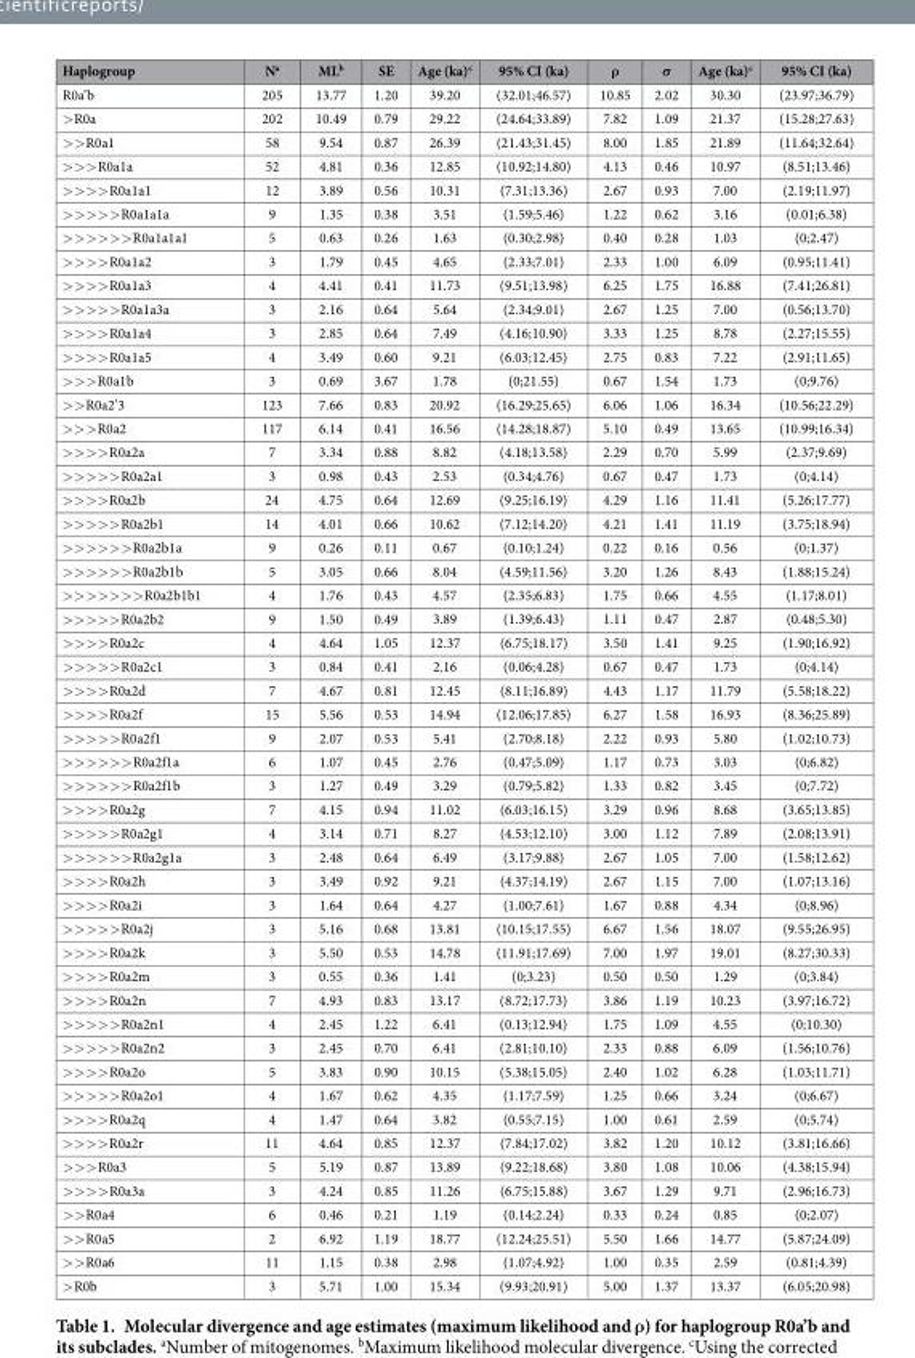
<table><thead><tr><td>Haplogroup</td><td>N<sup>a</sup></td><td>ML<sup>b</sup></td><td>SE</td><td>Age (ka)<sup>c</sup></td><td>95% CI (ka)</td><td>ρ</td><td>σ</td><td>Age (ka)<sup>c</sup></td><td>95% CI (ka)</td></tr></thead><tbody><tr><td>R0a’b</td><td>205</td><td>13.77</td><td>1.20</td><td>39.20</td><td>(32.01;46.57)</td><td>10.85</td><td>2.02</td><td>30.30</td><td>(23.97;36.79)</td></tr><tr><td>&gt; R0a</td><td>202</td><td>10.49</td><td>0.79</td><td>29.22</td><td>(24.64;33.89)</td><td>7.82</td><td>1.09</td><td>21.37</td><td>(15.28;27.63)</td></tr><tr><td>&gt; &gt; R0a1</td><td>58</td><td>9.54</td><td>0.87</td><td>26.39</td><td>(21.43;31.45)</td><td>8.00</td><td>1.85</td><td>21.89</td><td>(11.64;32.64)</td></tr><tr><td>&gt; &gt; &gt; R0a1a</td><td>52</td><td>4.81</td><td>0.36</td><td>12.85</td><td>(10.92;14.80)</td><td>4.13</td><td>0.46</td><td>10.97</td><td>(8.51;13.46)</td></tr><tr><td>&gt; &gt; &gt; &gt; R0a1a1</td><td>12</td><td>3.89</td><td>0.56</td><td>10.31</td><td>(7.31;13.36)</td><td>2.67</td><td>0.93</td><td>7.00</td><td>(2.19;11.97)</td></tr><tr><td>&gt; &gt; &gt; &gt; &gt; R0a1a1a</td><td>9</td><td>1.35</td><td>0.38</td><td>3.51</td><td>(1.59;5.46)</td><td>1.22</td><td>0.62</td><td>3.16</td><td>(0.01;6.38)</td></tr><tr><td>&gt; &gt; &gt; &gt; &gt; &gt; R0a1a1a1</td><td>5</td><td>0.63</td><td>0.26</td><td>1.63</td><td>(0.30;2.98)</td><td>0.40</td><td>0.28</td><td>1.03</td><td>(0;2.47)</td></tr><tr><td>&gt; &gt; &gt; &gt; R0a1a2</td><td>3</td><td>1.79</td><td>0.45</td><td>4.65</td><td>(2.33;7.01)</td><td>2.33</td><td>1.00</td><td>6.09</td><td>(0.95;11.41)</td></tr><tr><td>&gt; &gt; &gt; &gt; R0a1a3</td><td>4</td><td>4.41</td><td>0.41</td><td>11.73</td><td>(9.51;13.98)</td><td>6.25</td><td>1.75</td><td>16.88</td><td>(7.41;26.81)</td></tr><tr><td>&gt; &gt; &gt; &gt; &gt; R0a1a3a</td><td>3</td><td>2.16</td><td>0.64</td><td>5.64</td><td>(2.34;9.01)</td><td>2.67</td><td>1.25</td><td>7.00</td><td>(0.56;13.70)</td></tr><tr><td>&gt; &gt; &gt; &gt; R0a1a4</td><td>3</td><td>2.85</td><td>0.64</td><td>7.49</td><td>(4.16;10.90)</td><td>3.33</td><td>1.25</td><td>8.78</td><td>(2.27;15.55)</td></tr><tr><td>&gt; &gt; &gt; &gt; R0a1a5</td><td>4</td><td>3.49</td><td>0.60</td><td>9.21</td><td>(6.03;12.45)</td><td>2.75</td><td>0.83</td><td>7.22</td><td>(2.91;11.65)</td></tr><tr><td>&gt; &gt; &gt; R0a1b</td><td>3</td><td>0.69</td><td>3.67</td><td>1.78</td><td>(0;21.55)</td><td>0.67</td><td>1.54</td><td>1.73</td><td>(0;9.76)</td></tr><tr><td>&gt; &gt; R0a2’3</td><td>123</td><td>7.66</td><td>0.83</td><td>20.92</td><td>(16.29;25.65)</td><td>6.06</td><td>1.06</td><td>16.34</td><td>(10.56;22.29)</td></tr><tr><td>&gt; &gt; &gt; R0a2</td><td>117</td><td>6.14</td><td>0.41</td><td>16.56</td><td>(14.28;18.87)</td><td>5.10</td><td>0.49</td><td>13.65</td><td>(10.99;16.34)</td></tr><tr><td>&gt; &gt; &gt; &gt; R0a2a</td><td>7</td><td>3.34</td><td>0.88</td><td>8.82</td><td>(4.18;13.58)</td><td>2.29</td><td>0.70</td><td>5.99</td><td>(2.37;9.69)</td></tr><tr><td>&gt; &gt; &gt; &gt; &gt; R0a2a1</td><td>3</td><td>0.98</td><td>0.43</td><td>2.53</td><td>(0.34;4.76)</td><td>0.67</td><td>0.47</td><td>1.73</td><td>(0;4.14)</td></tr><tr><td>&gt; &gt; &gt; &gt; R0a2b</td><td>24</td><td>4.75</td><td>0.64</td><td>12.69</td><td>(9.25;16.19)</td><td>4.29</td><td>1.16</td><td>11.41</td><td>(5.26;17.77)</td></tr><tr><td>&gt; &gt; &gt; &gt; &gt; R0a2b1</td><td>14</td><td>4.01</td><td>0.66</td><td>10.62</td><td>(7.12;14.20)</td><td>4.21</td><td>1.41</td><td>11.19</td><td>(3.75;18.94)</td></tr><tr><td>&gt; &gt; &gt; &gt; &gt; &gt; R0a2b1a</td><td>9</td><td>0.26</td><td>0.11</td><td>0.67</td><td>(0.10;1.24)</td><td>0.22</td><td>0.16</td><td>0.56</td><td>(0;1.37)</td></tr><tr><td>&gt; &gt; &gt; &gt; &gt; &gt; R0a2b1b</td><td>5</td><td>3.05</td><td>0.66</td><td>8.04</td><td>(4.59;11.56)</td><td>3.20</td><td>1.26</td><td>8.43</td><td>(1.88;15.24)</td></tr><tr><td>&gt; &gt; &gt; &gt; &gt; &gt; &gt; R0a2b1b1</td><td>4</td><td>1.76</td><td>0.43</td><td>4.57</td><td>(2.35;6.83)</td><td>1.75</td><td>0.66</td><td>4.55</td><td>(1.17;8.01)</td></tr><tr><td>&gt; &gt; &gt; &gt; &gt; R0a2b2</td><td>9</td><td>1.50</td><td>0.49</td><td>3.89</td><td>(1.39;6.43)</td><td>1.11</td><td>0.47</td><td>2.87</td><td>(0.48;5.30)</td></tr><tr><td>&gt; &gt; &gt; &gt; R0a2c</td><td>4</td><td>4.64</td><td>1.05</td><td>12.37</td><td>(6.75;18.17)</td><td>3.50</td><td>1.41</td><td>9.25</td><td>(1.90;16.92)</td></tr><tr><td>&gt; &gt; &gt; &gt; &gt; R0a2c1</td><td>3</td><td>0.84</td><td>0.41</td><td>2.16</td><td>(0.06;4.28)</td><td>0.67</td><td>0.47</td><td>1.73</td><td>(0;4.14)</td></tr><tr><td>&gt; &gt; &gt; &gt; R0a2d</td><td>7</td><td>4.67</td><td>0.81</td><td>12.45</td><td>(8.11;16.89)</td><td>4.43</td><td>1.17</td><td>11.79</td><td>(5.58;18.22)</td></tr><tr><td>&gt; &gt; &gt; &gt; R0a2f</td><td>15</td><td>5.56</td><td>0.53</td><td>14.94</td><td>(12.06;17.85)</td><td>6.27</td><td>1.58</td><td>16.93</td><td>(8.36;25.89)</td></tr><tr><td>&gt; &gt; &gt; &gt; &gt; R0a2f1</td><td>9</td><td>2.07</td><td>0.53</td><td>5.41</td><td>(2.70;8.18)</td><td>2.22</td><td>0.93</td><td>5.80</td><td>(1.02;10.73)</td></tr><tr><td>&gt; &gt; &gt; &gt; &gt; &gt; R0a2f1a</td><td>6</td><td>1.07</td><td>0.45</td><td>2.76</td><td>(0.47;5.09)</td><td>1.17</td><td>0.73</td><td>3.03</td><td>(0;6.82)</td></tr><tr><td>&gt; &gt; &gt; &gt; &gt; &gt; R0a2f1b</td><td>3</td><td>1.27</td><td>0.49</td><td>3.29</td><td>(0.79;5.82)</td><td>1.33</td><td>0.82</td><td>3.45</td><td>(0;7.72)</td></tr><tr><td>&gt; &gt; &gt; &gt; R0a2g</td><td>7</td><td>4.15</td><td>0.94</td><td>11.02</td><td>(6.03;16.15)</td><td>3.29</td><td>0.96</td><td>8.68</td><td>(3.65;13.85)</td></tr><tr><td>&gt; &gt; &gt; &gt; &gt; R0a2g1</td><td>4</td><td>3.14</td><td>0.71</td><td>8.27</td><td>(4.53;12.10)</td><td>3.00</td><td>1.12</td><td>7.89</td><td>(2.08;13.91)</td></tr><tr><td>&gt; &gt; &gt; &gt; &gt; &gt; R0a2g1a</td><td>3</td><td>2.48</td><td>0.64</td><td>6.49</td><td>(3.17;9.88)</td><td>2.67</td><td>1.05</td><td>7.00</td><td>(1.58;12.62)</td></tr><tr><td>&gt; &gt; &gt; &gt; R0a2h</td><td>3</td><td>3.49</td><td>0.92</td><td>9.21</td><td>(4.37;14.19)</td><td>2.67</td><td>1.15</td><td>7.00</td><td>(1.07;13.16)</td></tr><tr><td>&gt; &gt; &gt; &gt; R0a2i</td><td>3</td><td>1.64</td><td>0.64</td><td>4.27</td><td>(1.00;7.61)</td><td>1.67</td><td>0.88</td><td>4.34</td><td>(0;8.96)</td></tr><tr><td>&gt; &gt; &gt; &gt; &gt; R0a2j</td><td>3</td><td>5.16</td><td>0.68</td><td>13.81</td><td>(10.15;17.55)</td><td>6.67</td><td>1.56</td><td>18.07</td><td>(9.55;26.95)</td></tr><tr><td>&gt; &gt; &gt; &gt; R0a2k</td><td>3</td><td>5.50</td><td>0.53</td><td>14.78</td><td>(11.91;17.69)</td><td>7.00</td><td>1.97</td><td>19.01</td><td>(8.27;30.33)</td></tr><tr><td>&gt; &gt; &gt; &gt; R0a2m</td><td>3</td><td>0.55</td><td>0.36</td><td>1.41</td><td>(0;3.23)</td><td>0.50</td><td>0.50</td><td>1.29</td><td>(0;3.84)</td></tr><tr><td>&gt; &gt; &gt; &gt; R0a2n</td><td>7</td><td>4.93</td><td>0.83</td><td>13.17</td><td>(8.72;17.73)</td><td>3.86</td><td>1.19</td><td>10.23</td><td>(3.97;16.72)</td></tr><tr><td>&gt; &gt; &gt; &gt; &gt; R0a2n1</td><td>4</td><td>2.45</td><td>1.22</td><td>6.41</td><td>(0.13;12.94)</td><td>1.75</td><td>1.09</td><td>4.55</td><td>(0;10.30)</td></tr><tr><td>&gt; &gt; &gt; &gt; &gt; R0a2n2</td><td>3</td><td>2.45</td><td>0.70</td><td>6.41</td><td>(2.81;10.10)</td><td>2.33</td><td>0.88</td><td>6.09</td><td>(1.56;10.76)</td></tr><tr><td>&gt; &gt; &gt; &gt; R0a2o</td><td>5</td><td>3.83</td><td>0.90</td><td>10.15</td><td>(5.38;15.05)</td><td>2.40</td><td>1.02</td><td>6.28</td><td>(1.03;11.71)</td></tr><tr><td>&gt; &gt; &gt; &gt; &gt; R0a2o1</td><td>4</td><td>1.67</td><td>0.62</td><td>4.35</td><td>(1.17;7.59)</td><td>1.25</td><td>0.66</td><td>3.24</td><td>(0;6.67)</td></tr><tr><td>&gt; &gt; &gt; &gt; R0a2q</td><td>4</td><td>1.47</td><td>0.64</td><td>3.82</td><td>(0.55;7.15)</td><td>1.00</td><td>0.61</td><td>2.59</td><td>(0;5.74)</td></tr><tr><td>&gt; &gt; &gt; &gt; R0a2r</td><td>11</td><td>4.64</td><td>0.85</td><td>12.37</td><td>(7.84;17.02)</td><td>3.82</td><td>1.20</td><td>10.12</td><td>(3.81;16.66)</td></tr><tr><td>&gt; &gt; &gt; R0a3</td><td>5</td><td>5.19</td><td>0.87</td><td>13.89</td><td>(9.22;18.68)</td><td>3.80</td><td>1.08</td><td>10.06</td><td>(4.38;15.94)</td></tr><tr><td>&gt; &gt; &gt; &gt; R0a3a</td><td>3</td><td>4.24</td><td>0.85</td><td>11.26</td><td>(6.75;15.88)</td><td>3.67</td><td>1.29</td><td>9.71</td><td>(2.96;16.73)</td></tr><tr><td>&gt; &gt; R0a4</td><td>6</td><td>0.46</td><td>0.21</td><td>1.19</td><td>(0.14;2.24)</td><td>0.33</td><td>0.24</td><td>0.85</td><td>(0;2.07)</td></tr><tr><td>&gt; &gt; R0a5</td><td>2</td><td>6.92</td><td>1.19</td><td>18.77</td><td>(12.24;25.51)</td><td>5.50</td><td>1.66</td><td>14.77</td><td>(5.87;24.09)</td></tr><tr><td>&gt; &gt; R0a6</td><td>11</td><td>1.15</td><td>0.38</td><td>2.98</td><td>(1.07;4.92)</td><td>1.00</td><td>0.35</td><td>2.59</td><td>(0.81;4.39)</td></tr><tr><td>&gt; R0b</td><td>3</td><td>5.71</td><td>1.00</td><td>15.34</td><td>(9.93;20.91)</td><td>5.00</td><td>1.37</td><td>13.37</td><td>(6.05;20.98)</td></tr></tbody></table>